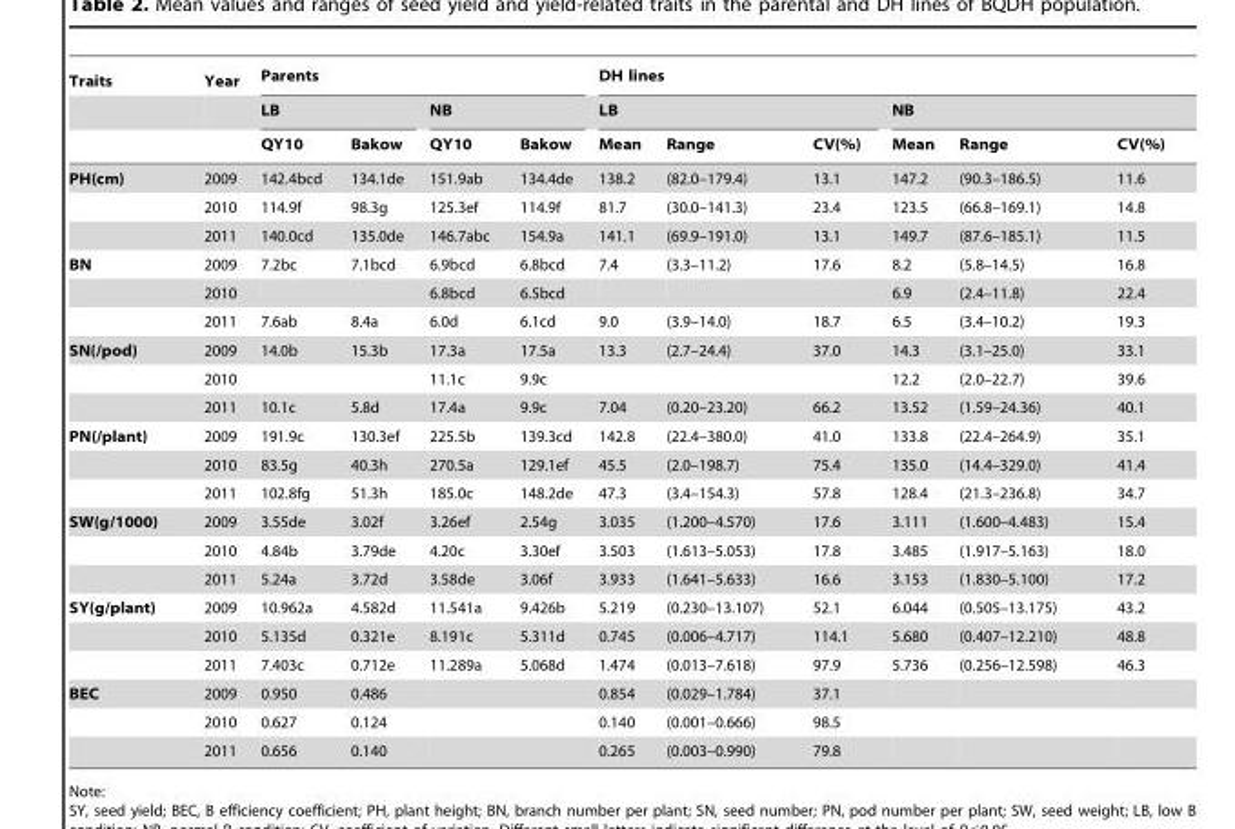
<table><thead><tr><td rowspan="3">Traits</td><td rowspan="3">Year</td><td colspan="4">Parents</td><td colspan="6">DH lines</td></tr><tr><td colspan="2">LB</td><td colspan="2">NB</td><td colspan="3">LB</td><td colspan="3">NB</td></tr><tr><td>QY10</td><td>Bakow</td><td>QY10</td><td>Bakow</td><td>Mean</td><td>Range</td><td>CV(%)</td><td>Mean</td><td>Range</td><td>CV(%)</td></tr></thead><tbody><tr><td rowspan="3">PH(cm)</td><td>2009</td><td>142.4bcd</td><td>134.1de</td><td>151.9ab</td><td>134.4de</td><td>138.2</td><td>(82.0–179.4)</td><td>13.1</td><td>147.2</td><td>(90.3–186.5)</td><td>11.6</td></tr><tr><td>2010</td><td>114.9f</td><td>98.3g</td><td>125.3ef</td><td>114.9f</td><td>81.7</td><td>(30.0–141.3)</td><td>23.4</td><td>123.5</td><td>(66.8–169.1)</td><td>14.8</td></tr><tr><td>2011</td><td>140.0cd</td><td>135.0de</td><td>146.7abc</td><td>154.9a</td><td>141.1</td><td>(69.9–191.0)</td><td>13.1</td><td>149.7</td><td>(87.6–185.1)</td><td>11.5</td></tr><tr><td rowspan="3">BN</td><td>2009</td><td>7.2bc</td><td>7.1bcd</td><td>6.9bcd</td><td>6.8bcd</td><td>7.4</td><td>(3.3–11.2)</td><td>17.6</td><td>8.2</td><td>(5.8–14.5)</td><td>16.8</td></tr><tr><td>2010</td><td></td><td></td><td>6.8bcd</td><td>6.5bcd</td><td></td><td></td><td></td><td>6.9</td><td>(2.4–11.8)</td><td>22.4</td></tr><tr><td>2011</td><td>7.6ab</td><td>8.4a</td><td>6.0d</td><td>6.1cd</td><td>9.0</td><td>(3.9–14.0)</td><td>18.7</td><td>6.5</td><td>(3.4–10.2)</td><td>19.3</td></tr><tr><td rowspan="3">SN(/pod)</td><td>2009</td><td>14.0b</td><td>15.3b</td><td>17.3a</td><td>17.5a</td><td>13.3</td><td>(2.7–24.4)</td><td>37.0</td><td>14.3</td><td>(3.1–25.0)</td><td>33.1</td></tr><tr><td>2010</td><td></td><td></td><td>11.1c</td><td>9.9c</td><td></td><td></td><td></td><td>12.2</td><td>(2.0–22.7)</td><td>39.6</td></tr><tr><td>2011</td><td>10.1c</td><td>5.8d</td><td>17.4a</td><td>9.9c</td><td>7.04</td><td>(0.20–23.20)</td><td>66.2</td><td>13.52</td><td>(1.59–24.36)</td><td>40.1</td></tr><tr><td rowspan="3">PN(/plant)</td><td>2009</td><td>191.9c</td><td>130.3ef</td><td>225.5b</td><td>139.3cd</td><td>142.8</td><td>(22.4–380.0)</td><td>41.0</td><td>133.8</td><td>(22.4–264.9)</td><td>35.1</td></tr><tr><td>2010</td><td>83.5g</td><td>40.3h</td><td>270.5a</td><td>129.1ef</td><td>45.5</td><td>(2.0–198.7)</td><td>75.4</td><td>135.0</td><td>(14.4–329.0)</td><td>41.4</td></tr><tr><td>2011</td><td>102.8fg</td><td>51.3h</td><td>185.0c</td><td>148.2de</td><td>47.3</td><td>(3.4–154.3)</td><td>57.8</td><td>128.4</td><td>(21.3–236.8)</td><td>34.7</td></tr><tr><td rowspan="3">SW(g/1000)</td><td>2009</td><td>3.55de</td><td>3.02f</td><td>3.26ef</td><td>2.54g</td><td>3.035</td><td>(1.200–4.570)</td><td>17.6</td><td>3.111</td><td>(1.600–4.483)</td><td>15.4</td></tr><tr><td>2010</td><td>4.84b</td><td>3.79de</td><td>4.20c</td><td>3.30ef</td><td>3.503</td><td>(1.613–5.053)</td><td>17.8</td><td>3.485</td><td>(1.917–5.163)</td><td>18.0</td></tr><tr><td>2011</td><td>5.24a</td><td>3.72d</td><td>3.58de</td><td>3.06f</td><td>3.933</td><td>(1.641–5.633)</td><td>16.6</td><td>3.153</td><td>(1.830–5.100)</td><td>17.2</td></tr><tr><td rowspan="3">SY(g/plant)</td><td>2009</td><td>10.962a</td><td>4.582d</td><td>11.541a</td><td>9.426b</td><td>5.219</td><td>(0.230–13.107)</td><td>52.1</td><td>6.044</td><td>(0.505–13.175)</td><td>43.2</td></tr><tr><td>2010</td><td>5.135d</td><td>0.321e</td><td>8.191c</td><td>5.311d</td><td>0.745</td><td>(0.006–4.717)</td><td>114.1</td><td>5.680</td><td>(0.407–12.210)</td><td>48.8</td></tr><tr><td>2011</td><td>7.403c</td><td>0.712e</td><td>11.289a</td><td>5.068d</td><td>1.474</td><td>(0.013–7.618)</td><td>97.9</td><td>5.736</td><td>(0.256–12.598)</td><td>46.3</td></tr><tr><td rowspan="3">BEC</td><td>2009</td><td>0.950</td><td>0.486</td><td></td><td></td><td>0.854</td><td>(0.029–1.784)</td><td>37.1</td><td></td><td></td><td></td></tr><tr><td>2010</td><td>0.627</td><td>0.124</td><td></td><td></td><td>0.140</td><td>(0.001–0.666)</td><td>98.5</td><td></td><td></td><td></td></tr><tr><td>2011</td><td>0.656</td><td>0.140</td><td></td><td></td><td>0.265</td><td>(0.003–0.990)</td><td>79.8</td><td></td><td></td><td></td></tr></tbody></table>